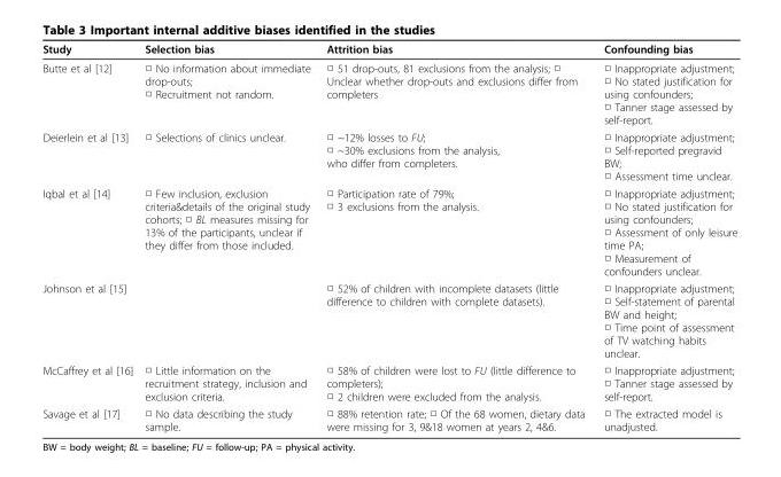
<table><thead><tr><td>Study</td><td>Selection bias</td><td>Attrition bias</td><td>Confounding bias</td></tr></thead><tbody><tr><td>Butte et al [12]</td><td>□ No information about immediate drop-outs; □ Recruitment not random.</td><td>□ 51 drop-outs, 81 exclusions from the analysis; □ Unclear whether drop-outs and exclusions differ from completers</td><td>□ Inappropriate adjustment; □ No stated justification for using confounders; □ Tanner stage assessed by self-report.</td></tr><tr><td>Deierlein et al [13]</td><td>□ Selections of clinics unclear.</td><td>□ ~12% losses to FU; □ ~30% exclusions from the analysis, who differ from completers.</td><td>□ Inappropriate adjustment; □ Self-reported pregravid BW; □ Assessment time unclear.</td></tr><tr><td>Iqbal et al [14]</td><td>□ Few inclusion, exclusion criteria&amp;details of the original study cohorts; □ BL measures missing for 13% of the participants, unclear if they differ from those included.</td><td>□ Participation rate of 79%; □ 3 exclusions from the analysis.</td><td>□ Inappropriate adjustment; □ No stated justification for using confounders; □ Assessment of only leisure time PA; □ Measurement of confounders unclear.</td></tr><tr><td>Johnson et al [15]</td><td></td><td>□ 52% of children with incomplete datasets (little difference to children with complete datasets).</td><td>□ Inappropriate adjustment; □ Self-statement of parental BW and height; □ Time point of assessment of TV watching habits unclear.</td></tr><tr><td>McCaffrey et al [16]</td><td>□ Little information on the recruitment strategy, inclusion and exclusion criteria.</td><td>□ 58% of children were lost to FU (little difference to completers); □ 2 children were excluded from the analysis.</td><td>□ Inappropriate adjustment; □ Tanner stage assessed by self-report.</td></tr><tr><td>Savage et al [17]</td><td>□ No data describing the study sample.</td><td>□ 88% retention rate; □ Of the 68 women, dietary data were missing for 3, 9&amp;18 women at years 2, 4&amp;6.</td><td>□ The extracted model is unadjusted.</td></tr></tbody></table>